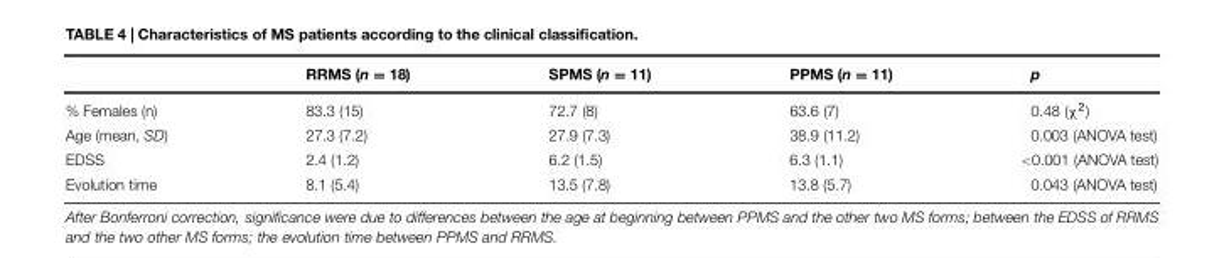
<table><thead><tr><td></td><td>RRMS (n = 18)</td><td>SPMS (n = 11)</td><td>PPMS (n = 11)</td><td>p</td></tr></thead><tbody><tr><td>% Females (n)</td><td>83.3 (15)</td><td>72.7 (8)</td><td>63.6 (7)</td><td>0.48 (χ<sup>2</sup>)</td></tr><tr><td>Age (mean, SD)</td><td>27.3 (7.2)</td><td>27.9 (7.3)</td><td>38.9 (11.2)</td><td>0.003 (ANOVA test)</td></tr><tr><td>EDSS</td><td>2.4 (1.2)</td><td>6.2 (1.5)</td><td>6.3 (1.1)</td><td>&lt;0.001 (ANOVA test)</td></tr><tr><td>Evolution time</td><td>8.1 (5.4)</td><td>13.5 (7.8)</td><td>13.8 (5.7)</td><td>0.043 (ANOVA test)</td></tr></tbody></table>